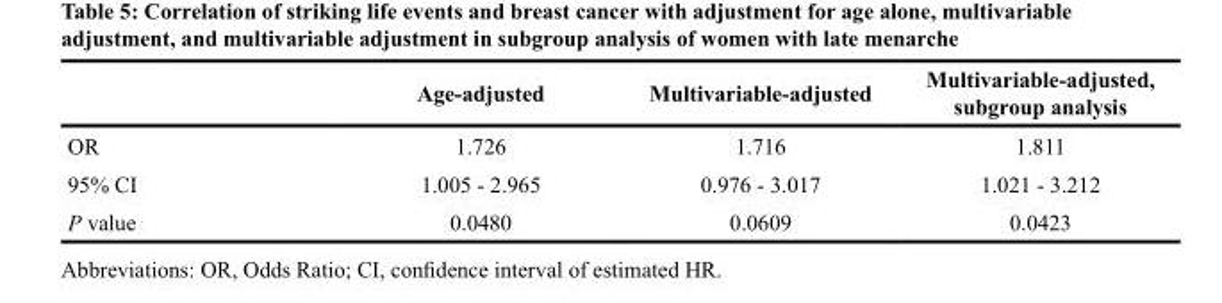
<table><thead><tr><td></td><td>Age-adjusted</td><td>Multivariable-adjusted</td><td>Multivariable-adjusted, subgroup analysis</td></tr></thead><tbody><tr><td>OR</td><td>1.726</td><td>1.716</td><td>1.811</td></tr><tr><td>95% CI</td><td>1.005 - 2.965</td><td>0.976 - 3.017</td><td>1.021 - 3.212</td></tr><tr><td>P value</td><td>0.0480</td><td>0.0609</td><td>0.0423</td></tr></tbody></table>